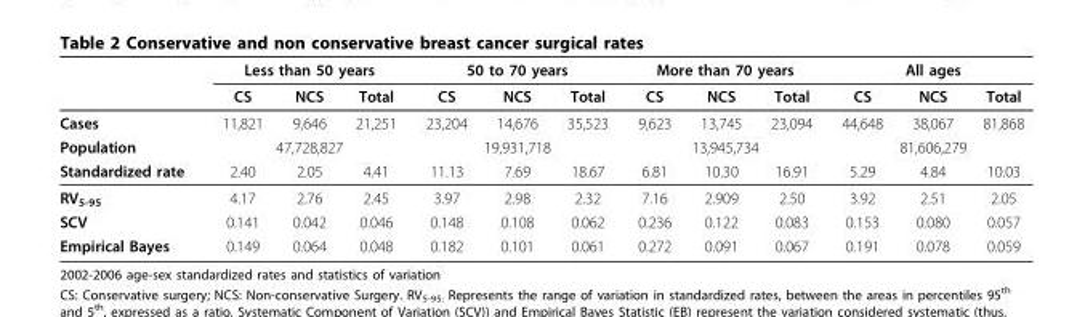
<table><thead><tr><td rowspan="2"></td><td colspan="3">Less than 50 years</td><td colspan="3">50 to 70 years</td><td colspan="3">More than 70 years</td><td colspan="3">All ages</td></tr><tr><td>CS</td><td>NCS</td><td>Total</td><td>CS</td><td>NCS</td><td>Total</td><td>CS</td><td>NCS</td><td>Total</td><td>CS</td><td>NCS</td><td>Total</td></tr></thead><tbody><tr><td>Cases</td><td>11,821</td><td>9,646</td><td>21,251</td><td>23,204</td><td>14,676</td><td>35,523</td><td>9,623</td><td>13,745</td><td>23,094</td><td>44,648</td><td>38,067</td><td>81,868</td></tr><tr><td>Population</td><td colspan="3">47,728,827</td><td colspan="3">19,931,718</td><td colspan="3">13,945,734</td><td colspan="3">81,606,279</td></tr><tr><td>Standardized rate</td><td>2.40</td><td>2.05</td><td>4.41</td><td>11.13</td><td>7.69</td><td>18.67</td><td>6.81</td><td>10.30</td><td>16.91</td><td>5.29</td><td>4.84</td><td>10.03</td></tr><tr><td>RV<sub>5-95</sub></td><td>4.17</td><td>2.76</td><td>2.45</td><td>3.97</td><td>2.98</td><td>2.32</td><td>7.16</td><td>2.909</td><td>2.50</td><td>3.92</td><td>2.51</td><td>2.05</td></tr><tr><td>SCV</td><td>0.141</td><td>0.042</td><td>0.046</td><td>0.148</td><td>0.108</td><td>0.062</td><td>0.236</td><td>0.122</td><td>0.083</td><td>0.153</td><td>0.080</td><td>0.057</td></tr><tr><td>Empirical Bayes</td><td>0.149</td><td>0.064</td><td>0.048</td><td>0.182</td><td>0.101</td><td>0.061</td><td>0.272</td><td>0.091</td><td>0.067</td><td>0.191</td><td>0.078</td><td>0.059</td></tr></tbody></table>